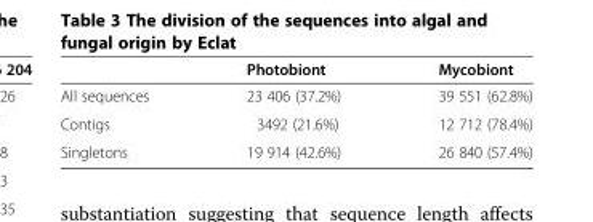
<table><thead><tr><td></td><td>Photobiont</td><td>Mycobiont</td></tr></thead><tbody><tr><td>All sequences</td><td>23 406 (37.2%)</td><td>39 551 (62.8%)</td></tr><tr><td>Contigs</td><td>3492 (21.6%)</td><td>12 712 (78.4%)</td></tr><tr><td>Singletons</td><td>19 914 (42.6%)</td><td>26 840 (57.4%)</td></tr></tbody></table>